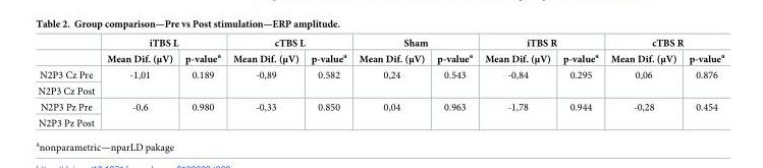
<table><thead><tr><td rowspan="2"></td><td colspan="2">iTBS L</td><td colspan="2">cTBS L</td><td colspan="2">Sham</td><td colspan="2">iTBS R</td><td colspan="2">cTBS R</td></tr><tr><td>Mean Dif. (μV)</td><td>p-value<sup>a</sup></td><td>Mean Dif. (μV)</td><td>p-value<sup>a</sup></td><td>Mean Dif. (μV)</td><td>p-value<sup>a</sup></td><td>Mean Dif. (μV)</td><td>p-value<sup>a</sup></td><td>Mean Dif. (μV)</td><td>p-value<sup>a</sup></td></tr></thead><tbody><tr><td>N2P3 Cz Pre</td><td rowspan="2">-1,01</td><td rowspan="2">0.189</td><td rowspan="2">-0,89</td><td rowspan="2">0.582</td><td rowspan="2">0,24</td><td rowspan="2">0.543</td><td rowspan="2">-0,84</td><td rowspan="2">0.295</td><td rowspan="2">0,06</td><td rowspan="2">0.876</td></tr><tr><td>N2P3 Cz Post</td></tr><tr><td>N2P3 Pz Pre</td><td rowspan="2">-0,6</td><td rowspan="2">0.980</td><td rowspan="2">-0,33</td><td rowspan="2">0.850</td><td rowspan="2">0,04</td><td rowspan="2">0.963</td><td rowspan="2">-1,78</td><td rowspan="2">0.944</td><td rowspan="2">-0,28</td><td rowspan="2">0.454</td></tr><tr><td>N2P3 Pz Post</td></tr></tbody></table>